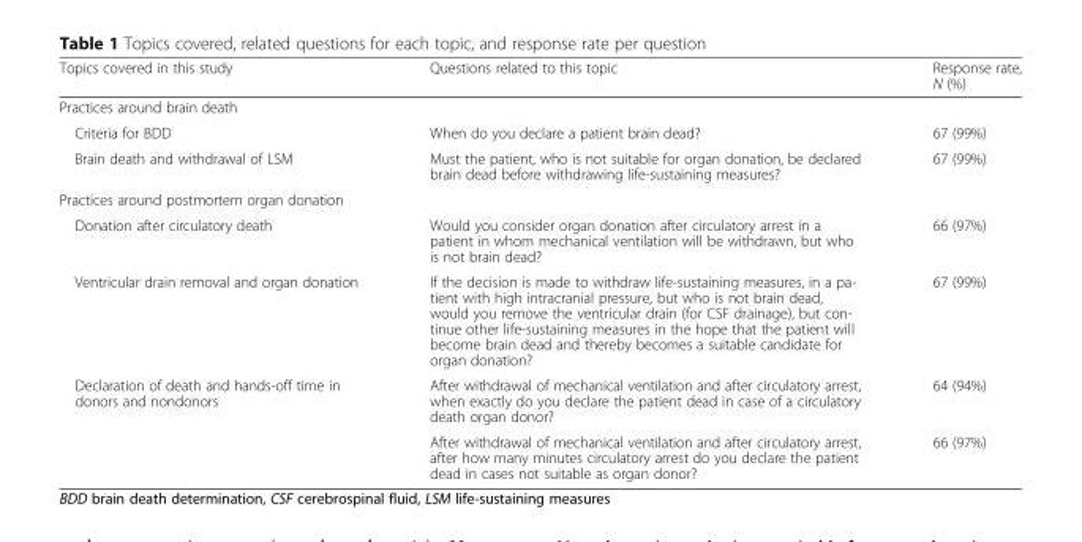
<table><thead><tr><td>Topics covered in this study</td><td>Questions related to this topic</td><td>Response rate, N (%)</td></tr></thead><tbody><tr><td colspan="3">Practices around brain death</td></tr><tr><td>Criteria for BDD</td><td>When do you declare a patient brain dead?</td><td>67 (99%)</td></tr><tr><td>Brain death and withdrawal of LSM</td><td>Must the patient, who is not suitable for organ donation, be declared brain dead before withdrawing life-sustaining measures?</td><td>67 (99%)</td></tr><tr><td colspan="3">Practices around postmortem organ donation</td></tr><tr><td>Donation after circulatory death</td><td>Would you consider organ donation after circulatory arrest in a patient in whom mechanical ventilation will be withdrawn, but who is not brain dead?</td><td>66 (97%)</td></tr><tr><td>Ventricular drain removal and organ donation</td><td>If the decision is made to withdraw life-sustaining measures, in a pa- tient with high intracranial pressure, but who is not brain dead, would you remove the ventricular drain (for CSF drainage), but con- tinue other life-sustaining measures in the hope that the patient will become brain dead and thereby becomes a suitable candidate for organ donation?</td><td>67 (99%)</td></tr><tr><td rowspan="2">Declaration of death and hands-off time in donors and nondonors</td><td>After withdrawal of mechanical ventilation and after circulatory arrest, when exactly do you declare the patient dead in case of a circulatory death organ donor?</td><td>64 (94%)</td></tr><tr><td>After withdrawal of mechanical ventilation and after circulatory arrest, after how many minutes circulatory arrest do you declare the patient dead in cases not suitable as organ donor?</td><td>66 (97%)</td></tr></tbody></table>